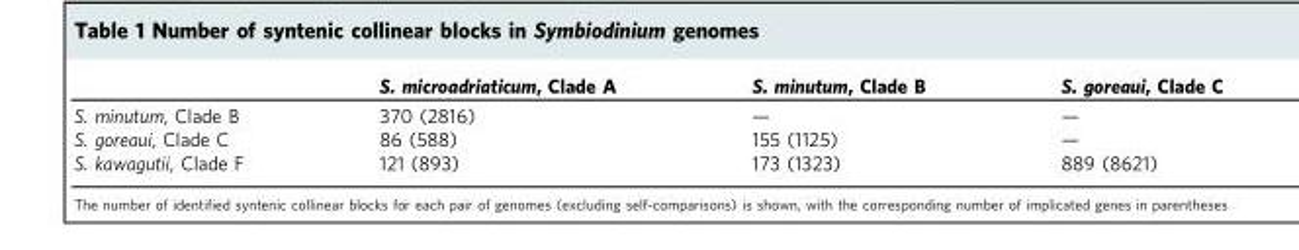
<table><thead><tr><td></td><td>S. microadriaticum, Clade A</td><td>S. minutum, Clade B</td><td>S. goreaui, Clade C</td></tr></thead><tbody><tr><td>S. minutum, Clade B</td><td>370 (2816)</td><td>—</td><td>—</td></tr><tr><td>S. goreaui, Clade C</td><td>86 (588)</td><td>155 (1125)</td><td>—</td></tr><tr><td>S. kawagutii, Clade F</td><td>121 (893)</td><td>173 (1323)</td><td>889 (8621)</td></tr></tbody></table>